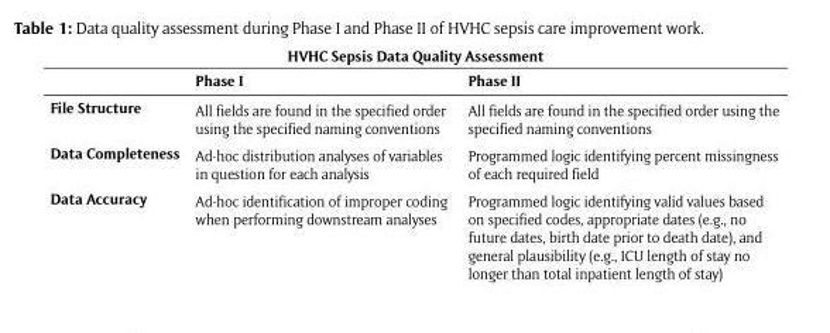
<table><thead><tr><td rowspan="2"></td><td colspan="2">HVHC Sepsis Data Quality Assessment</td></tr><tr><td>Phase I</td><td>Phase II</td></tr></thead><tbody><tr><td>File Structure</td><td>All fields are found in the specified order using the specified naming conventions</td><td>All fields are found in the specified order using the specified naming conventions</td></tr><tr><td>Data Completeness</td><td>Ad-hoc distribution analyses of variables in question for each analysis</td><td>Programmed logic identifying percent missingness of each required field</td></tr><tr><td>Data Accuracy</td><td>Ad-hoc identification of improper coding when performing downstream analyses</td><td>Programmed logic identifying valid values based on specified codes, appropriate dates (e.g., no future dates, birth date prior to death date), and general plausibility (e.g., ICU length of stay no longer than total inpatient length of stay)</td></tr></tbody></table>